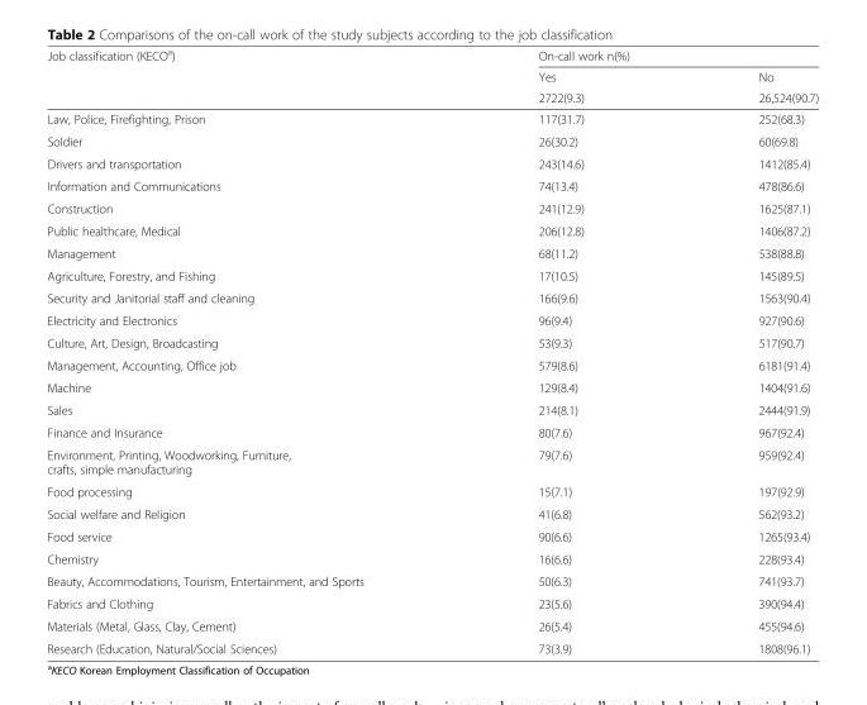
<table><thead><tr><td rowspan="3">Job classification (KECO<sup>a</sup>)</td><td colspan="2">On-call work n(%)</td></tr><tr><td rowspan="2">Yes 2722(9.3)</td><td rowspan="2">No 26,524(90.7)</td></tr><tr></tr></thead><tbody><tr><td>Law, Police, Firefighting, Prison</td><td>117(31.7)</td><td>252(68.3)</td></tr><tr><td>Soldier</td><td>26(30.2)</td><td>60(69.8)</td></tr><tr><td>Drivers and transportation</td><td>243(14.6)</td><td>1412(85.4)</td></tr><tr><td>Information and Communications</td><td>74(13.4)</td><td>478(86.6)</td></tr><tr><td>Construction</td><td>241(12.9)</td><td>1625(87.1)</td></tr><tr><td>Public healthcare, Medical</td><td>206(12.8)</td><td>1406(87.2)</td></tr><tr><td>Management</td><td>68(11.2)</td><td>538(88.8)</td></tr><tr><td>Agriculture, Forestry, and Fishing</td><td>17(10.5)</td><td>145(89.5)</td></tr><tr><td>Security and Janitorial staff and cleaning</td><td>166(9.6)</td><td>1563(90.4)</td></tr><tr><td>Electricity and Electronics</td><td>96(9.4)</td><td>927(90.6)</td></tr><tr><td>Culture, Art, Design, Broadcasting</td><td>53(9.3)</td><td>517(90.7)</td></tr><tr><td>Management, Accounting, Office job</td><td>579(8.6)</td><td>6181(91.4)</td></tr><tr><td>Machine</td><td>129(8.4)</td><td>1404(91.6)</td></tr><tr><td>Sales</td><td>214(8.1)</td><td>2444(91.9)</td></tr><tr><td>Finance and Insurance</td><td>80(7.6)</td><td>967(92.4)</td></tr><tr><td>Environment, Printing, Woodworking, Furniture, crafts, simple manufacturing</td><td>79(7.6)</td><td>959(92.4)</td></tr><tr><td>Food processing</td><td>15(7.1)</td><td>197(92.9)</td></tr><tr><td>Social welfare and Religion</td><td>41(6.8)</td><td>562(93.2)</td></tr><tr><td>Food service</td><td>90(6.6)</td><td>1265(93.4)</td></tr><tr><td>Chemistry</td><td>16(6.6)</td><td>228(93.4)</td></tr><tr><td>Beauty, Accommodations, Tourism, Entertainment, and Sports</td><td>50(6.3)</td><td>741(93.7)</td></tr><tr><td>Fabrics and Clothing</td><td>23(5.6)</td><td>390(94.4)</td></tr><tr><td>Materials (Metal, Glass, Clay, Cement)</td><td>26(5.4)</td><td>455(94.6)</td></tr><tr><td>Research (Education, Natural/Social Sciences)</td><td>73(3.9)</td><td>1808(96.1)</td></tr></tbody></table>